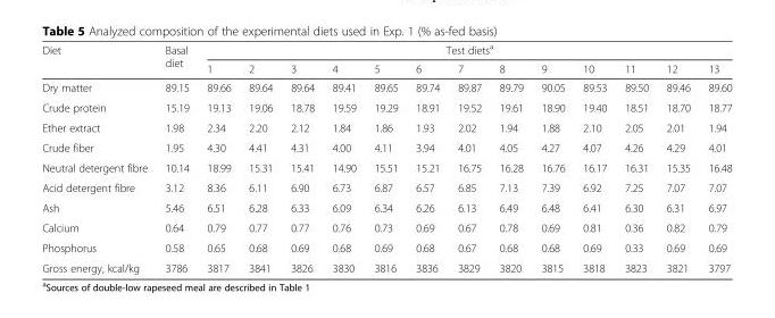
<table><thead><tr><td rowspan="2">Diet</td><td rowspan="2">Basal diet</td><td colspan="13">Test diets<sup>a</sup></td></tr><tr><td>1</td><td>2</td><td>3</td><td>4</td><td>5</td><td>6</td><td>7</td><td>8</td><td>9</td><td>10</td><td>11</td><td>12</td><td>13</td></tr></thead><tbody><tr><td>Dry matter</td><td>89.15</td><td>89.66</td><td>89.64</td><td>89.64</td><td>89.41</td><td>89.65</td><td>89.74</td><td>89.87</td><td>89.79</td><td>90.05</td><td>89.53</td><td>89.50</td><td>89.46</td><td>89.60</td></tr><tr><td>Crude protein</td><td>15.19</td><td>19.13</td><td>19.06</td><td>18.78</td><td>19.59</td><td>19.29</td><td>18.91</td><td>19.52</td><td>19.61</td><td>18.90</td><td>19.40</td><td>18.51</td><td>18.70</td><td>18.77</td></tr><tr><td>Ether extract</td><td>1.98</td><td>2.34</td><td>2.20</td><td>2.12</td><td>1.84</td><td>1.86</td><td>1.93</td><td>2.02</td><td>1.94</td><td>1.88</td><td>2.10</td><td>2.05</td><td>2.01</td><td>1.94</td></tr><tr><td>Crude fiber</td><td>1.95</td><td>4.30</td><td>4.41</td><td>4.31</td><td>4.00</td><td>4.11</td><td>3.94</td><td>4.01</td><td>4.05</td><td>4.27</td><td>4.07</td><td>4.26</td><td>4.29</td><td>4.01</td></tr><tr><td>Neutral detergent fibre</td><td>10.14</td><td>18.99</td><td>15.31</td><td>15.41</td><td>14.90</td><td>15.51</td><td>15.21</td><td>16.75</td><td>16.28</td><td>16.76</td><td>16.17</td><td>16.31</td><td>15.35</td><td>16.48</td></tr><tr><td>Acid detergent fibre</td><td>3.12</td><td>8.36</td><td>6.11</td><td>6.90</td><td>6.73</td><td>6.87</td><td>6.57</td><td>6.85</td><td>7.13</td><td>7.39</td><td>6.92</td><td>7.25</td><td>7.07</td><td>7.07</td></tr><tr><td>Ash</td><td>5.46</td><td>6.51</td><td>6.28</td><td>6.33</td><td>6.09</td><td>6.34</td><td>6.26</td><td>6.13</td><td>6.49</td><td>6.48</td><td>6.41</td><td>6.30</td><td>6.31</td><td>6.97</td></tr><tr><td>Calcium</td><td>0.64</td><td>0.79</td><td>0.77</td><td>0.77</td><td>0.76</td><td>0.73</td><td>0.69</td><td>0.67</td><td>0.78</td><td>0.69</td><td>0.81</td><td>0.36</td><td>0.82</td><td>0.79</td></tr><tr><td>Phosphorus</td><td>0.58</td><td>0.65</td><td>0.68</td><td>0.69</td><td>0.68</td><td>0.69</td><td>0.68</td><td>0.67</td><td>0.68</td><td>0.68</td><td>0.69</td><td>0.33</td><td>0.69</td><td>0.69</td></tr><tr><td>Gross energy, kcal/kg</td><td>3786</td><td>3817</td><td>3841</td><td>3826</td><td>3830</td><td>3816</td><td>3836</td><td>3829</td><td>3820</td><td>3815</td><td>3818</td><td>3823</td><td>3821</td><td>3797</td></tr></tbody></table>